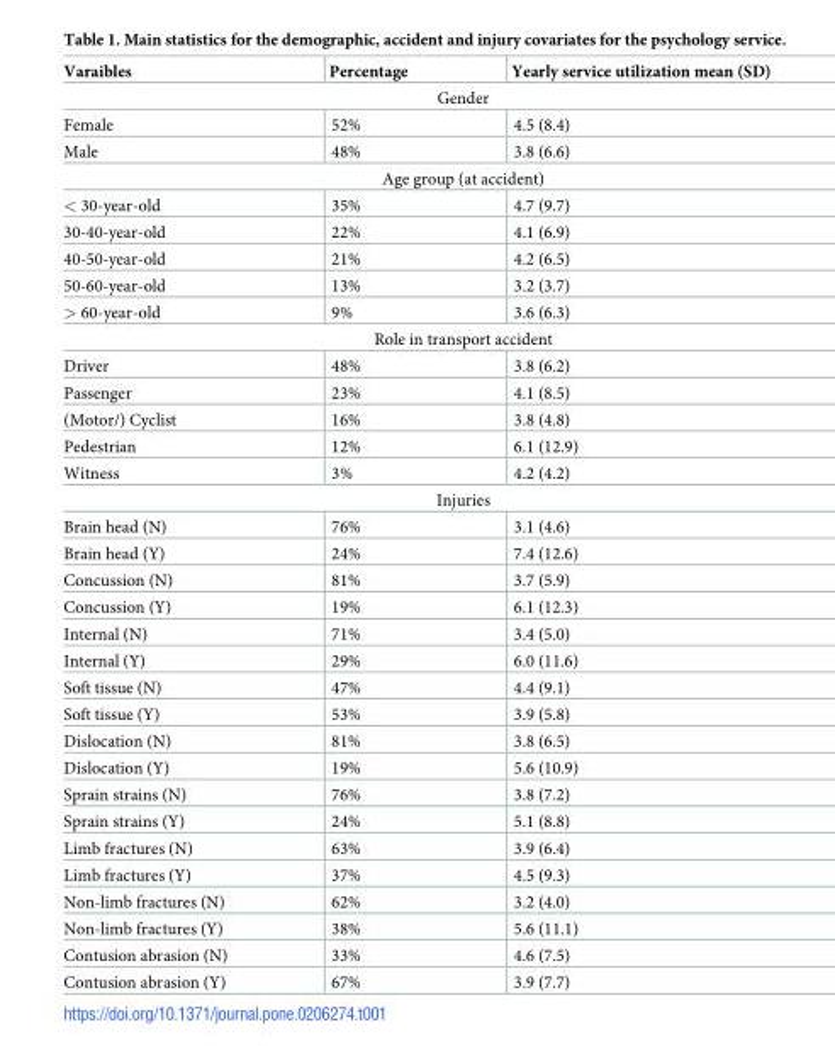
<table><thead><tr><td>Varaibles</td><td>Percentage</td><td>Yearly service utilization mean (SD)</td></tr></thead><tbody><tr><td colspan="3">Gender</td></tr><tr><td>Female</td><td>52%</td><td>4.5 (8.4)</td></tr><tr><td>Male</td><td>48%</td><td>3.8 (6.6)</td></tr><tr><td colspan="3">Age group (at accident)</td></tr><tr><td>&lt; 30-year-old</td><td>35%</td><td>4.7 (9.7)</td></tr><tr><td>30-40-year-old</td><td>22%</td><td>4.1 (6.9)</td></tr><tr><td>40-50-year-old</td><td>21%</td><td>4.2 (6.5)</td></tr><tr><td>50-60-year-old</td><td>13%</td><td>3.2 (3.7)</td></tr><tr><td>&gt; 60-year-old</td><td>9%</td><td>3.6 (6.3)</td></tr><tr><td colspan="3">Role in transport accident</td></tr><tr><td>Driver</td><td>48%</td><td>3.8 (6.2)</td></tr><tr><td>Passenger</td><td>23%</td><td>4.1 (8.5)</td></tr><tr><td>(Motor/) Cyclist</td><td>16%</td><td>3.8 (4.8)</td></tr><tr><td>Pedestrian</td><td>12%</td><td>6.1 (12.9)</td></tr><tr><td>Witness</td><td>3%</td><td>4.2 (4.2)</td></tr><tr><td colspan="3">Injuries</td></tr><tr><td>Brain head (N)</td><td>76%</td><td>3.1 (4.6)</td></tr><tr><td>Brain head (Y)</td><td>24%</td><td>7.4 (12.6)</td></tr><tr><td>Concussion (N)</td><td>81%</td><td>3.7 (5.9)</td></tr><tr><td>Concussion (Y)</td><td>19%</td><td>6.1 (12.3)</td></tr><tr><td>Internal (N)</td><td>71%</td><td>3.4 (5.0)</td></tr><tr><td>Internal (Y)</td><td>29%</td><td>6.0 (11.6)</td></tr><tr><td>Soft tissue (N)</td><td>47%</td><td>4.4 (9.1)</td></tr><tr><td>Soft tissue (Y)</td><td>53%</td><td>3.9 (5.8)</td></tr><tr><td>Dislocation (N)</td><td>81%</td><td>3.8 (6.5)</td></tr><tr><td>Dislocation (Y)</td><td>19%</td><td>5.6 (10.9)</td></tr><tr><td>Sprain strains (N)</td><td>76%</td><td>3.8 (7.2)</td></tr><tr><td>Sprain strains (Y)</td><td>24%</td><td>5.1 (8.8)</td></tr><tr><td>Limb fractures (N)</td><td>63%</td><td>3.9 (6.4)</td></tr><tr><td>Limb fractures (Y)</td><td>37%</td><td>4.5 (9.3)</td></tr><tr><td>Non-limb fractures (N)</td><td>62%</td><td>3.2 (4.0)</td></tr><tr><td>Non-limb fractures (Y)</td><td>38%</td><td>5.6 (11.1)</td></tr><tr><td>Contusion abrasion (N)</td><td>33%</td><td>4.6 (7.5)</td></tr><tr><td>Contusion abrasion (Y)</td><td>67%</td><td>3.9 (7.7)</td></tr></tbody></table>